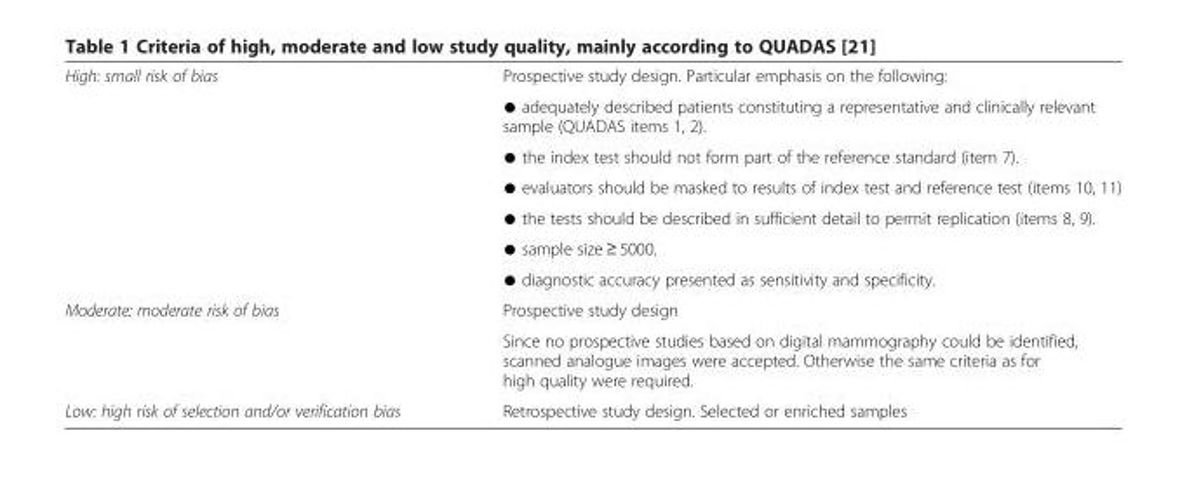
<table><tbody><tr><td rowspan="7">High: small risk of bias</td><td>Prospective study design. Particular emphasis on the following:</td></tr><tr><td>● adequately described patients constituting a representative and clinically relevant sample (QUADAS items 1, 2).</td></tr><tr><td>● the index test should not form part of the reference standard (item 7).</td></tr><tr><td>● evaluators should be masked to results of index test and reference test (items 10, 11)</td></tr><tr><td>● the tests should be described in sufficient detail to permit replication (items 8, 9).</td></tr><tr><td>● sample size ≥ 5000.</td></tr><tr><td>● diagnostic accuracy presented as sensitivity and specificity.</td></tr><tr><td rowspan="2">Moderate: moderate risk of bias</td><td>Prospective study design</td></tr><tr><td>Since no prospective studies based on digital mammography could be identified, scanned analogue images were accepted. Otherwise the same criteria as for high quality were required.</td></tr><tr><td>Low: high risk of selection and/or verification bias</td><td>Retrospective study design. Selected or enriched samples</td></tr></tbody></table>